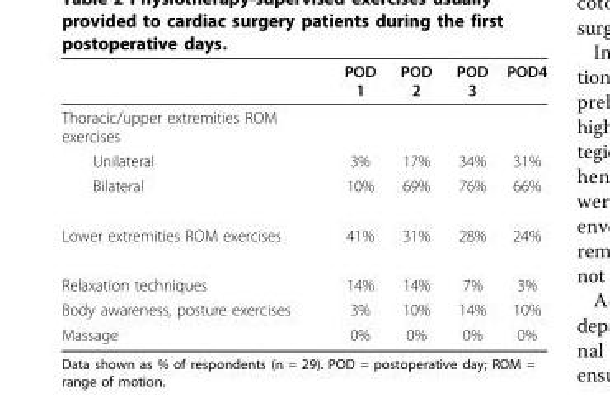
<table><thead><tr><td></td><td>POD 1</td><td>POD 2</td><td>POD 3</td><td>POD4</td></tr></thead><tbody><tr><td colspan="5">Thoracic/upper extremities ROM exercises</td></tr><tr><td>Unilateral</td><td>3%</td><td>17%</td><td>34%</td><td>31%</td></tr><tr><td>Bilateral</td><td>10%</td><td>69%</td><td>76%</td><td>66%</td></tr><tr><td>Lower extremities ROM exercises</td><td>41%</td><td>31%</td><td>28%</td><td>24%</td></tr><tr><td>Relaxation techniques</td><td>14%</td><td>14%</td><td>7%</td><td>3%</td></tr><tr><td>Body awareness, posture exercises</td><td>3%</td><td>10%</td><td>14%</td><td>10%</td></tr><tr><td>Massage</td><td>0%</td><td>0%</td><td>0%</td><td>0%</td></tr></tbody></table>